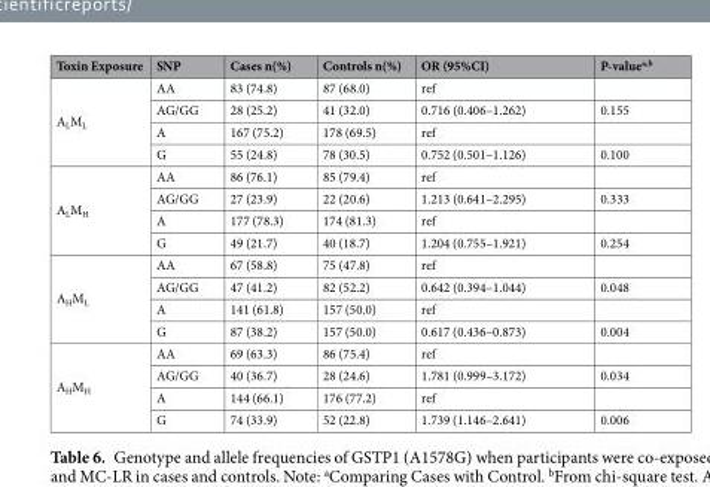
<table><thead><tr><td>Toxin Exposure</td><td>SNP</td><td>Cases n(%)</td><td>Controls n(%)</td><td>OR (95%CI)</td><td>P-value<sup>a,b</sup></td></tr></thead><tbody><tr><td rowspan="4">A<sub>L</sub>M<sub>L</sub></td><td>AA</td><td>83 (74.8)</td><td>87 (68.0)</td><td>ref</td><td></td></tr><tr><td>AG/GG</td><td>28 (25.2)</td><td>41 (32.0)</td><td>0.716 (0.406–1.262)</td><td>0.155</td></tr><tr><td>A</td><td>167 (75.2)</td><td>178 (69.5)</td><td>ref</td><td></td></tr><tr><td>G</td><td>55 (24.8)</td><td>78 (30.5)</td><td>0.752 (0.501–1.126)</td><td>0.100</td></tr><tr><td rowspan="4">A<sub>L</sub>M<sub>H</sub></td><td>AA</td><td>86 (76.1)</td><td>85 (79.4)</td><td>ref</td><td></td></tr><tr><td>AG/GG</td><td>27 (23.9)</td><td>22 (20.6)</td><td>1.213 (0.641–2.295)</td><td>0.333</td></tr><tr><td>A</td><td>177 (78.3)</td><td>174 (81.3)</td><td>ref</td><td></td></tr><tr><td>G</td><td>49 (21.7)</td><td>40 (18.7)</td><td>1.204 (0.755–1.921)</td><td>0.254</td></tr><tr><td rowspan="4">A<sub>H</sub>M<sub>L</sub></td><td>AA</td><td>67 (58.8)</td><td>75 (47.8)</td><td>ref</td><td></td></tr><tr><td>AG/GG</td><td>47 (41.2)</td><td>82 (52.2)</td><td>0.642 (0.394–1.044)</td><td>0.048</td></tr><tr><td>A</td><td>141 (61.8)</td><td>157 (50.0)</td><td>ref</td><td></td></tr><tr><td>G</td><td>87 (38.2)</td><td>157 (50.0)</td><td>0.617 (0.436–0.873)</td><td>0.004</td></tr><tr><td rowspan="4">A<sub>H</sub>M<sub>H</sub></td><td>AA</td><td>69 (63.3)</td><td>86 (75.4)</td><td>ref</td><td></td></tr><tr><td>AG/GG</td><td>40 (36.7)</td><td>28 (24.6)</td><td>1.781 (0.999–3.172)</td><td>0.034</td></tr><tr><td>A</td><td>144 (66.1)</td><td>176 (77.2)</td><td>ref</td><td></td></tr><tr><td>G</td><td>74 (33.9)</td><td>52 (22.8)</td><td>1.739 (1.146–2.641)</td><td>0.006</td></tr></tbody></table>